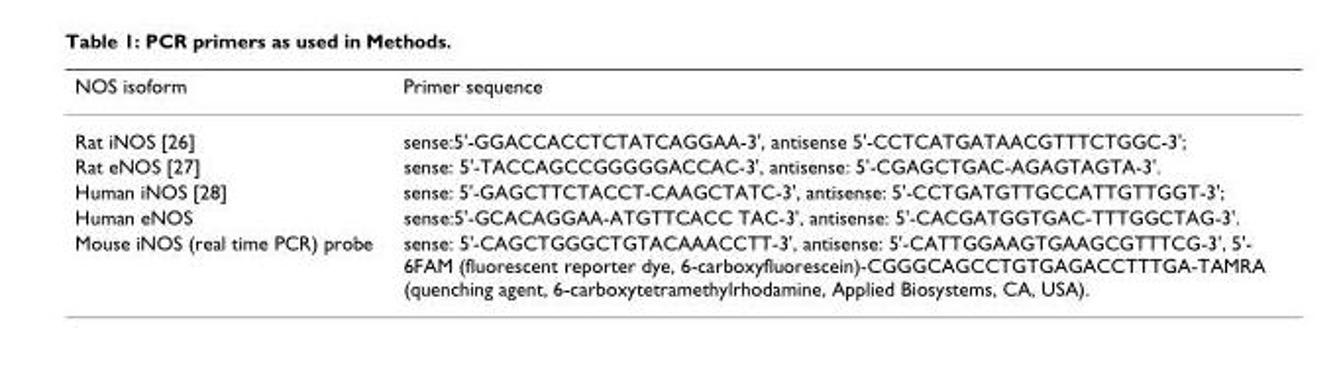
<table><thead><tr><td>NOS isoform</td><td>Primer sequence</td></tr></thead><tbody><tr><td>Rat iNOS [26]</td><td>sense:5&#x27;-GGACCACCTCTATCAGGAA-3&#x27;, antisense 5&#x27;-CCTCATGATAACGTTTCTGGC-3&#x27;;</td></tr><tr><td>Rat eNOS [27]</td><td>sense: 5&#x27;-TACCAGCCGGGGGACCAC-3&#x27;, antisense: 5&#x27;-CGAGCTGAC-AGAGTAGTA-3&#x27;.</td></tr><tr><td>Human iNOS [28]</td><td>sense: 5&#x27;-GAGCTTCTACCT-CAAGCTATC-3&#x27;, antisense: 5&#x27;-CCTGATGTTGCCATTGTTGGT-3&#x27;;</td></tr><tr><td>Human eNOS</td><td>sense:5&#x27;-GCACAGGAA-ATGTTCACC TAC-3&#x27;, antisense: 5&#x27;-CACGATGGTGAC-TTTGGCTAG-3&#x27;.</td></tr><tr><td>Mouse iNOS (real time PCR) probe</td><td>sense: 5&#x27;-CAGCTGGGCTGTACAAACCTT-3&#x27;, antisense: 5&#x27;-CATTGGAAGTGAAGCGTTTCG-3&#x27;, 5&#x27;- 6FAM (fluorescent reporter dye, 6-carboxyfluorescein)-CGGGCAGCCTGTGAGACCTTTGA-TAMRA (quenching agent, 6-carboxytetramethylrhodamine, Applied Biosystems, CA, USA).</td></tr></tbody></table>